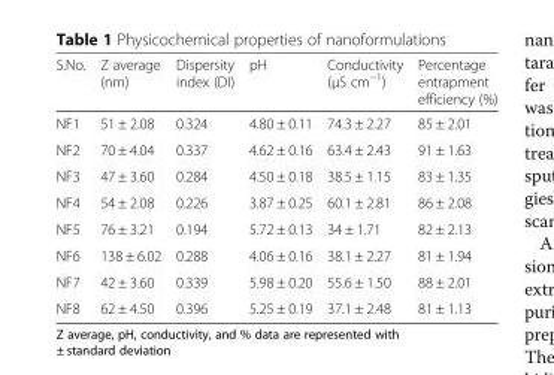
<table><thead><tr><td>S.No.</td><td>Z average (nm)</td><td>Dispersity index (DI)</td><td>pH</td><td>Conductivity (μS cm<sup>−1</sup>)</td><td>Percentage entrapment efficiency (%)</td></tr></thead><tbody><tr><td>NF1</td><td>51 ± 2.08</td><td>0.324</td><td>4.80 ± 0.11</td><td>74.3 ± 2.27</td><td>85 ± 2.01</td></tr><tr><td>NF2</td><td>70 ± 4.04</td><td>0.337</td><td>4.62 ± 0.16</td><td>63.4 ± 2.43</td><td>91 ± 1.63</td></tr><tr><td>NF3</td><td>47 ± 3.60</td><td>0.284</td><td>4.50 ± 0.18</td><td>38.5 ± 1.15</td><td>83 ± 1.35</td></tr><tr><td>NF4</td><td>54 ± 2.08</td><td>0.226</td><td>3.87 ± 0.25</td><td>60.1 ± 2.81</td><td>86 ± 2.08</td></tr><tr><td>NF5</td><td>76 ± 3.21</td><td>0.194</td><td>5.72 ± 0.13</td><td>34 ± 1.71</td><td>82 ± 2.13</td></tr><tr><td>NF6</td><td>138 ± 6.02</td><td>0.288</td><td>4.06 ± 0.16</td><td>38.1 ± 2.27</td><td>81 ± 1.94</td></tr><tr><td>NF7</td><td>42 ± 3.60</td><td>0.339</td><td>5.98 ± 0.20</td><td>55.6 ± 1.50</td><td>88 ± 2.01</td></tr><tr><td>NF8</td><td>62 ± 4.50</td><td>0.396</td><td>5.25 ± 0.19</td><td>37.1 ± 2.48</td><td>81 ± 1.13</td></tr></tbody></table>